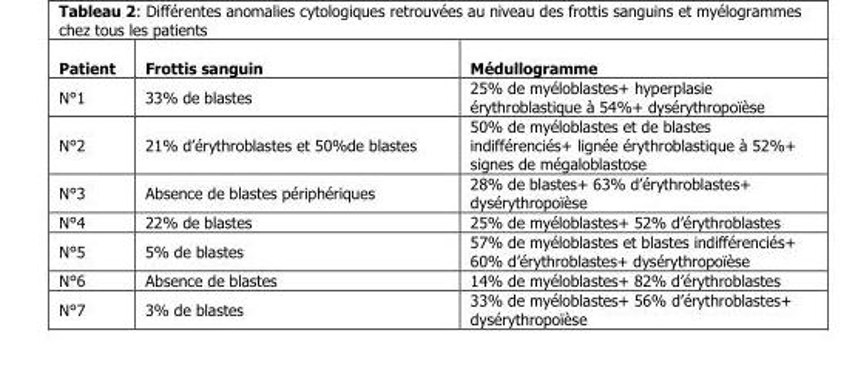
<table><thead><tr><td>Patient</td><td>Frottis sanguin</td><td>Médullogramme</td></tr></thead><tbody><tr><td>N°1</td><td>33% de blastes</td><td>25% de myéloblastes+ hyperplasie érythroblastique à 54%+ dysérythropoïèse</td></tr><tr><td>N°2</td><td>21% d’érythroblastes et 50%de blastes</td><td>50% de myéloblastes et de blastes indifférenciés+ lignée érythroblastique à 52%+ signes de mégaloblastose</td></tr><tr><td>N°3</td><td>Absence de blastes périphériques</td><td>28% de blastes+ 63% d’érythroblastes+ dysérythropoïèse</td></tr><tr><td>N°4</td><td>22% de blastes</td><td>25% de myéloblastes+ 52% d’érythroblastes</td></tr><tr><td>N°5</td><td>5% de blastes</td><td>57% de myéloblastes et blastes indifférenciés+ 60% d’érythroblastes+ dysérythropoïèse</td></tr><tr><td>N°6</td><td>Absence de blastes</td><td>14% de myéloblastes+ 82% d’érythroblastes</td></tr><tr><td>N°7</td><td>3% de blastes</td><td>33% de myéloblastes+ 56% d’érythroblastes+ dysérythropoïèse</td></tr></tbody></table>